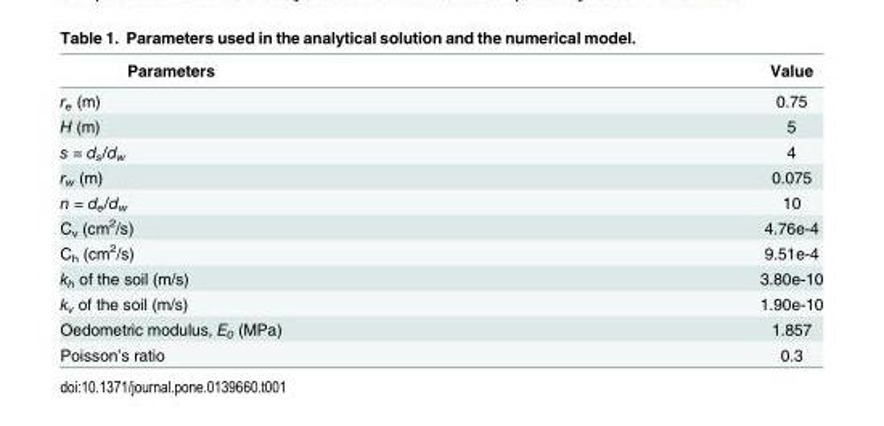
<table><thead><tr><td>Parameters</td><td>Value</td></tr></thead><tbody><tr><td>r<sub>e</sub> (m)</td><td>0.75</td></tr><tr><td>H (m)</td><td>5</td></tr><tr><td>s = d<sub>s</sub>/d<sub>w</sub></td><td>4</td></tr><tr><td>r<sub>w</sub> (m)</td><td>0.075</td></tr><tr><td>n = d<sub>e</sub>/d<sub>w</sub></td><td>10</td></tr><tr><td>C<sub>v</sub> (cm<sup>2</sup>/s)</td><td>4.76e-4</td></tr><tr><td>C<sub>h</sub> (cm<sup>2</sup>/s)</td><td>9.51e-4</td></tr><tr><td>k<sub>h</sub> of the soil (m/s)</td><td>3.80e-10</td></tr><tr><td>k<sub>v</sub> of the soil (m/s)</td><td>1.90e-10</td></tr><tr><td>Oedometric modulus, E<sub>0</sub> (MPa)</td><td>1.857</td></tr><tr><td>Poisson’s ratio</td><td>0.3</td></tr></tbody></table>